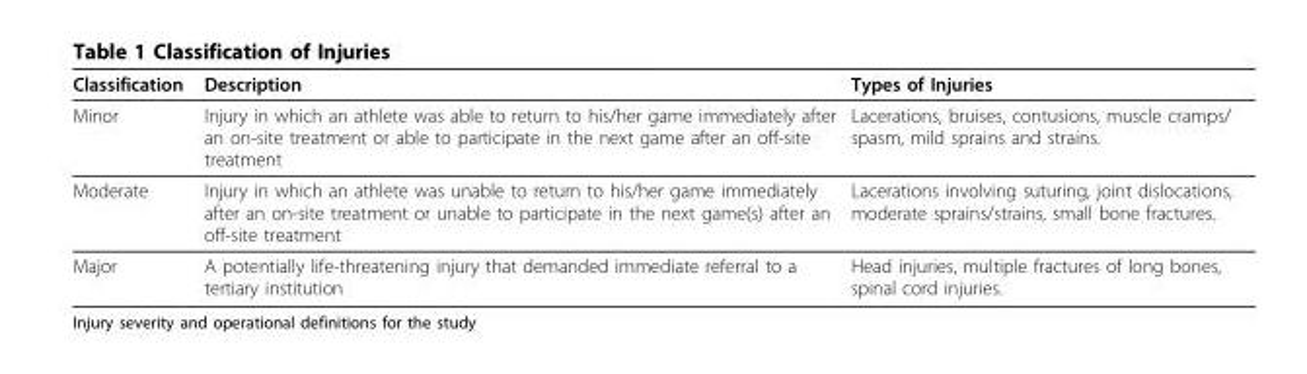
<table><thead><tr><td>Classification</td><td>Description</td><td>Types of Injuries</td></tr></thead><tbody><tr><td>Minor</td><td>Injury in which an athlete was able to return to his/her game immediately after an on-site treatment or able to participate in the next game after an off-site treatment</td><td>Lacerations, bruises, contusions, muscle cramps/ spasm, mild sprains and strains.</td></tr><tr><td>Moderate</td><td>Injury in which an athlete was unable to return to his/her game immediately after an on-site treatment or unable to participate in the next game(s) after an off-site treatment</td><td>Lacerations involving suturing, joint dislocations, moderate sprains/strains, small bone fractures.</td></tr><tr><td>Major</td><td>A potentially life-threatening injury that demanded immediate referral to a tertiary institution</td><td>Head injuries, multiple fractures of long bones, spinal cord injuries.</td></tr></tbody></table>